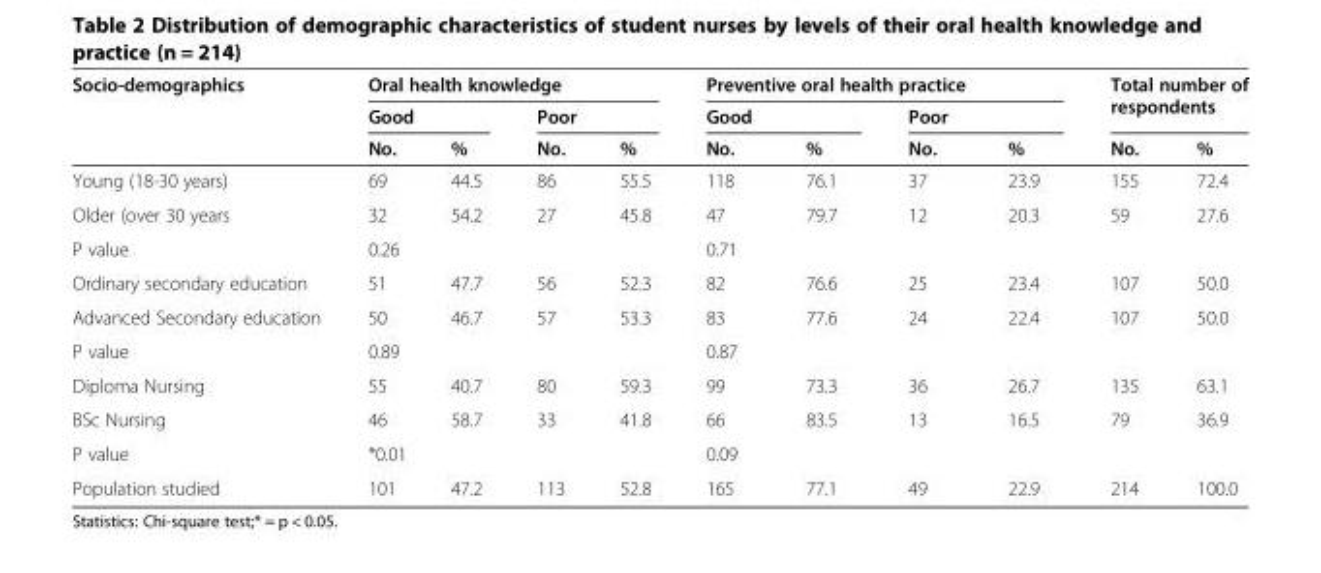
<table><thead><tr><td rowspan="3">Socio-demographics</td><td colspan="4">Oral health knowledge</td><td colspan="4">Preventive oral health practice</td><td rowspan="2" colspan="2">Total number of respondents</td></tr><tr><td colspan="2">Good</td><td colspan="2">Poor</td><td colspan="2">Good</td><td colspan="2">Poor</td></tr><tr><td>No.</td><td>%</td><td>No.</td><td>%</td><td>No.</td><td>%</td><td>No.</td><td>%</td><td>No.</td><td>%</td></tr></thead><tbody><tr><td>Young (18-30 years)</td><td>69</td><td>44.5</td><td>86</td><td>55.5</td><td>118</td><td>76.1</td><td>37</td><td>23.9</td><td>155</td><td>72.4</td></tr><tr><td>Older (over 30 years</td><td>32</td><td>54.2</td><td>27</td><td>45.8</td><td>47</td><td>79.7</td><td>12</td><td>20.3</td><td>59</td><td>27.6</td></tr><tr><td>P value</td><td colspan="4">0.26</td><td colspan="4">0.71</td><td></td><td></td></tr><tr><td>Ordinary secondary education</td><td>51</td><td>47.7</td><td>56</td><td>52.3</td><td>82</td><td>76.6</td><td>25</td><td>23.4</td><td>107</td><td>50.0</td></tr><tr><td>Advanced Secondary education</td><td>50</td><td>46.7</td><td>57</td><td>53.3</td><td>83</td><td>77.6</td><td>24</td><td>22.4</td><td>107</td><td>50.0</td></tr><tr><td>P value</td><td colspan="4">0.89</td><td colspan="4">0.87</td><td></td><td></td></tr><tr><td>Diploma Nursing</td><td>55</td><td>40.7</td><td>80</td><td>59.3</td><td>99</td><td>73.3</td><td>36</td><td>26.7</td><td>135</td><td>63.1</td></tr><tr><td>BSc Nursing</td><td>46</td><td>58.7</td><td>33</td><td>41.8</td><td>66</td><td>83.5</td><td>13</td><td>16.5</td><td>79</td><td>36.9</td></tr><tr><td>P value</td><td colspan="4">*0.01</td><td colspan="4">0.09</td><td></td><td></td></tr><tr><td>Population studied</td><td>101</td><td>47.2</td><td>113</td><td>52.8</td><td>165</td><td>77.1</td><td>49</td><td>22.9</td><td>214</td><td>100.0</td></tr></tbody></table>